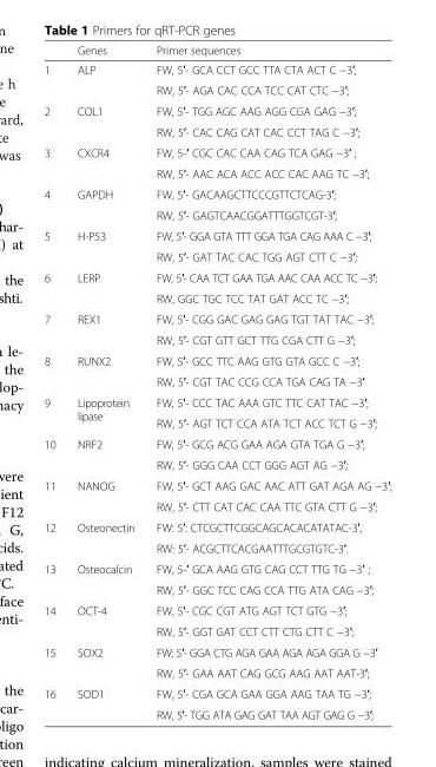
<table><thead><tr><td></td><td>Genes</td><td>Primer sequences</td></tr></thead><tbody><tr><td rowspan="2">1</td><td rowspan="2">ALP</td><td>FW, 5′- GCA CCT GCC TTA CTA ACT C −3′;</td></tr><tr><td>RW, 5′- AGA CAC CCA TCC CAT CTC −3′;</td></tr><tr><td rowspan="2">2</td><td rowspan="2">COL1</td><td>FW, 5′- TGG AGC AAG AGG CGA GAG −3′;</td></tr><tr><td>RW, 5′- CAC CAG CAT CAC CCT TAG C −3′;</td></tr><tr><td rowspan="2">3</td><td rowspan="2">CXCR4</td><td>FW, 5-′ CGC CAC CAA CAG TCA GAG −3′ ;</td></tr><tr><td>RW, 5′- AAC ACA ACC ACC CAC AAG TC −3′;</td></tr><tr><td rowspan="2">4</td><td rowspan="2">GAPDH</td><td>FW, 5′- GACAAGCTTCCCGTTCTCAG-3′;</td></tr><tr><td>RW, 5′- GAGTCAACGGATTTGGTCGT-3′;</td></tr><tr><td rowspan="2">5</td><td rowspan="2">H-P53</td><td>FW, 5′- GGA GTA TTT GGA TGA CAG AAA C −3′;</td></tr><tr><td>RW, 5′- GAT TAC CAC TGG AGT CTT C −3′;</td></tr><tr><td rowspan="2">6</td><td rowspan="2">LERP</td><td>FW, 5′- CAA TCT GAA TGA AAC CAA ACC TC −3′;</td></tr><tr><td>RW, GGC TGC TCC TAT GAT ACC TC −3′;</td></tr><tr><td rowspan="2">7</td><td rowspan="2">REX1</td><td>FW, 5′- CGG GAC GAG GAG TGT TAT TAC −3′;</td></tr><tr><td>RW, 5′- CGT GTT GCT TTG CGA CTT G −3′;</td></tr><tr><td rowspan="2">8</td><td rowspan="2">RUNX2</td><td>FW, 5′- GCC TTC AAG GTG GTA GCC C −3′;</td></tr><tr><td>RW, 5′- CGT TAC CCG CCA TGA CAG TA −3′</td></tr><tr><td rowspan="2">9</td><td rowspan="2">Lipoprotein lipase</td><td>FW, 5′- CCC TAC AAA GTC TTC CAT TAC −3′;</td></tr><tr><td>RW, 5′- AGT TCT CCA ATA TCT ACC TCT G −3′;</td></tr><tr><td rowspan="2">10</td><td rowspan="2">NRF2</td><td>FW, 5′- GCG ACG GAA AGA GTA TGA G −3′;</td></tr><tr><td>RW, 5′- GGG CAA CCT GGG AGT AG −3′;</td></tr><tr><td rowspan="2">11</td><td rowspan="2">NANOG</td><td>FW, 5′- GCT AAG GAC AAC ATT GAT AGA AG −3′;</td></tr><tr><td>RW, 5′- CTT CAT CAC CAA TTC GTA CTT G −3′;</td></tr><tr><td rowspan="2">12</td><td rowspan="2">Osteonectin</td><td>FW: 5′: CTCGCTTCGGCAGCACACATATAC-3′,</td></tr><tr><td>RW: 5′- ACGCTTCACGAATTTGCGTGTC-3′.</td></tr><tr><td rowspan="2">13</td><td rowspan="2">Osteocalcin</td><td>FW, 5-′ GCA AAG GTG CAG CCT TTG TG −3′ ;</td></tr><tr><td>RW, 5′- GGC TCC CAG CCA TTG ATA CAG −3′;</td></tr><tr><td rowspan="2">14</td><td rowspan="2">OCT-4</td><td>FW, 5′- CGC CGT ATG AGT TCT GTG −3′;</td></tr><tr><td>RW, 5′- GGT GAT CCT CTT CTG CTT C −3′;</td></tr><tr><td rowspan="2">15</td><td rowspan="2">SOX2</td><td>FW; 5′- GGA CTG AGA GAA AGA AGA GGA G −3′</td></tr><tr><td>RW, 5′- GAA AAT CAG GCG AAG AAT AAT-3′;</td></tr><tr><td rowspan="2">16</td><td rowspan="2">SOD1</td><td>FW, 5′- CGA GCA GAA GGA AAG TAA TG −3′;</td></tr><tr><td>RW, 5′- TGG ATA GAG GAT TAA AGT GAG G −3′;</td></tr></tbody></table>